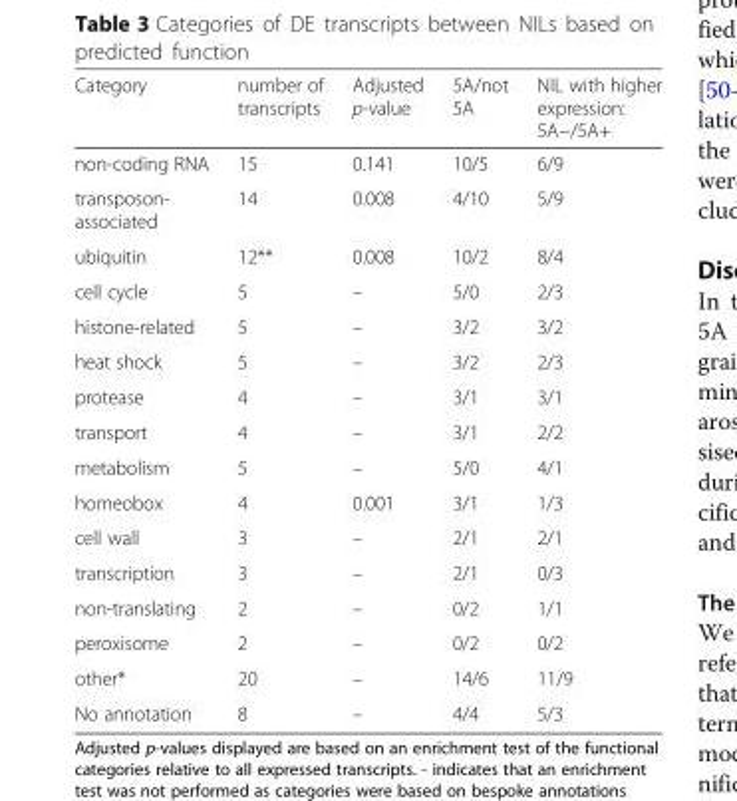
<table><thead><tr><td>Category</td><td>number of transcripts</td><td>Adjusted p-value</td><td>5A/not 5A</td><td>NIL with higher expression: 5A−/5A+</td></tr></thead><tbody><tr><td>non-coding RNA</td><td>15</td><td>0.141</td><td>10/5</td><td>6/9</td></tr><tr><td>transposon- associated</td><td>14</td><td>0.008</td><td>4/10</td><td>5/9</td></tr><tr><td>ubiquitin</td><td>12**</td><td>0.008</td><td>10/2</td><td>8/4</td></tr><tr><td>cell cycle</td><td>5</td><td>–</td><td>5/0</td><td>2/3</td></tr><tr><td>histone-related</td><td>5</td><td>–</td><td>3/2</td><td>3/2</td></tr><tr><td>heat shock</td><td>5</td><td>–</td><td>3/2</td><td>2/3</td></tr><tr><td>protease</td><td>4</td><td>–</td><td>3/1</td><td>3/1</td></tr><tr><td>transport</td><td>4</td><td>–</td><td>3/1</td><td>2/2</td></tr><tr><td>metabolism</td><td>5</td><td>–</td><td>5/0</td><td>4/1</td></tr><tr><td>homeobox</td><td>4</td><td>0.001</td><td>3/1</td><td>1/3</td></tr><tr><td>cell wall</td><td>3</td><td>–</td><td>2/1</td><td>2/1</td></tr><tr><td>transcription</td><td>3</td><td>–</td><td>2/1</td><td>0/3</td></tr><tr><td>non-translating</td><td>2</td><td>–</td><td>0/2</td><td>1/1</td></tr><tr><td>peroxisome</td><td>2</td><td>–</td><td>0/2</td><td>0/2</td></tr><tr><td>other*</td><td>20</td><td>–</td><td>14/6</td><td>11/9</td></tr><tr><td>No annotation</td><td>8</td><td>–</td><td>4/4</td><td>5/3</td></tr></tbody></table>